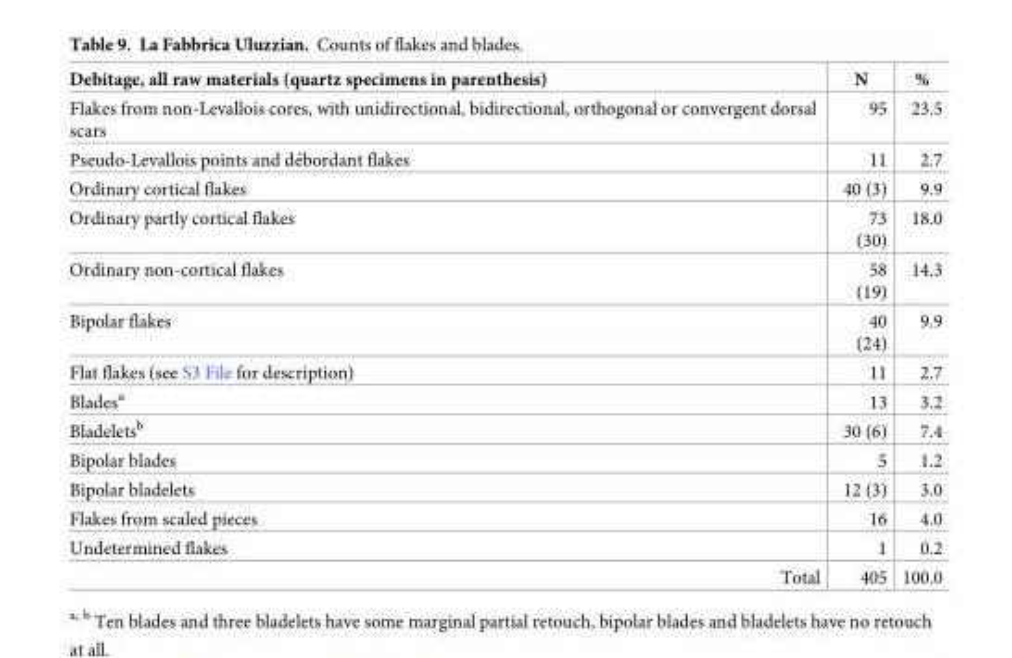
<table><thead><tr><td>Debitage, all raw materials (quartz specimens in parenthesis)</td><td>N</td><td>%</td></tr></thead><tbody><tr><td>Flakes from non-Levallois cores, with unidirectional, bidirectional, orthogonal or convergent dorsal scars</td><td>95</td><td>23.5</td></tr><tr><td>Pseudo-Levallois points and de´bordant flakes</td><td>11</td><td>2.7</td></tr><tr><td>Ordinary cortical flakes</td><td>40 (3)</td><td>9.9</td></tr><tr><td>Ordinary partly cortical flakes</td><td>73 (30)</td><td>18.0</td></tr><tr><td>Ordinary non-cortical flakes</td><td>58 (19)</td><td>14.3</td></tr><tr><td>Bipolar flakes</td><td>40 (24)</td><td>9.9</td></tr><tr><td>Flat flakes (see S3 File for description)</td><td>11</td><td>2.7</td></tr><tr><td>Blades<sup>a</sup></td><td>13</td><td>3.2</td></tr><tr><td>Bladelets<sup>b</sup></td><td>30 (6)</td><td>7.4</td></tr><tr><td>Bipolar blades</td><td>5</td><td>1.2</td></tr><tr><td>Bipolar bladelets</td><td>12 (3)</td><td>3.0</td></tr><tr><td>Flakes from scaled pieces</td><td>16</td><td>4.0</td></tr><tr><td>Undetermined flakes</td><td>1</td><td>0.2</td></tr><tr><td>Total</td><td>405</td><td>100.0</td></tr></tbody></table>